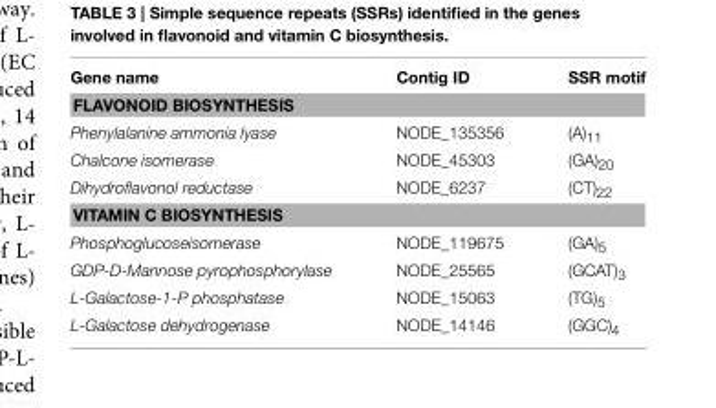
<table><thead><tr><td>Gene name</td><td>Contig ID</td><td>SSR motif</td></tr></thead><tbody><tr><td colspan="3">FLAVONOID BIOSYNTHESIS</td></tr><tr><td>Phenylalanine ammonia lyase</td><td>NODE_135356</td><td>(A)<sub>11</sub></td></tr><tr><td>Chalcone isomerase</td><td>NODE_45303</td><td>(GA)<sub>20</sub></td></tr><tr><td>Dihydroflavonol reductase</td><td>NODE_6237</td><td>(CT)<sub>22</sub></td></tr><tr><td colspan="3">VITAMIN C BIOSYNTHESIS</td></tr><tr><td>Phosphoglucoseisomerase</td><td>NODE_119675</td><td>(GA)<sub>5</sub></td></tr><tr><td>GDP-D-Mannose pyrophosphorylase</td><td>NODE_25565</td><td>(GCAT)<sub>3</sub></td></tr><tr><td>L-Galactose-1-P phosphatase</td><td>NODE_15063</td><td>(TG)<sub>5</sub></td></tr><tr><td>L-Galactose dehydrogenase</td><td>NODE_14146</td><td>(GGC)<sub>4</sub></td></tr></tbody></table>